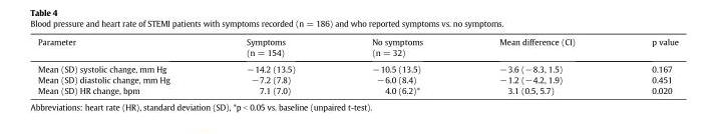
<table><thead><tr><td>Parameter</td><td>Symptoms (n = 154)</td><td>No symptoms (n = 32)</td><td>Mean difference (CI)</td><td>p value</td></tr></thead><tbody><tr><td>Mean (SD) systolic change, mm Hg</td><td>−14.2 (13.5)</td><td>−10.5 (13.5)</td><td>−3.6 (−8.3, 1.5)</td><td>0.167</td></tr><tr><td>Mean (SD) diastolic change, mm Hg</td><td>−7.2 (7.8)</td><td>−6.0 (8.4)</td><td>−1.2 (−4.2, 1.9)</td><td>0.451</td></tr><tr><td>Mean (SD) HR change, bpm</td><td>7.1 (7.0)</td><td>4.0 (6.2)*</td><td>3.1 (0.5, 5.7)</td><td>0.020</td></tr></tbody></table>